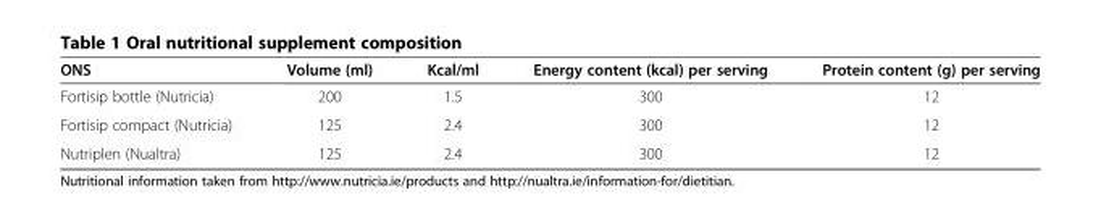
<table><thead><tr><td>ONS</td><td>Volume (ml)</td><td>Kcal/ml</td><td>Energy content (kcal) per serving</td><td>Protein content (g) per serving</td></tr></thead><tbody><tr><td>Fortisip bottle (Nutricia)</td><td>200</td><td>1.5</td><td>300</td><td>12</td></tr><tr><td>Fortisip compact (Nutricia)</td><td>125</td><td>2.4</td><td>300</td><td>12</td></tr><tr><td>Nutriplen (Nualtra)</td><td>125</td><td>2.4</td><td>300</td><td>12</td></tr></tbody></table>